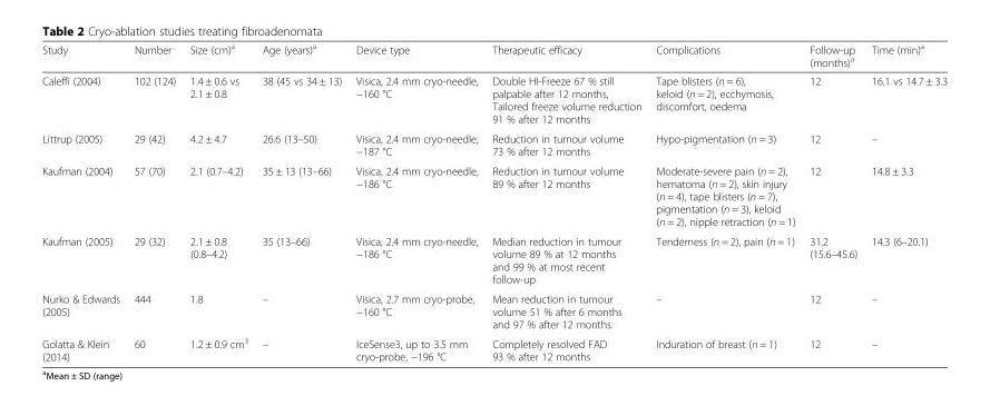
<table><thead><tr><td>Study</td><td>Number</td><td>Size (cm)<sup>a</sup></td><td>Age (years)<sup>a</sup></td><td>Device type</td><td>Therapeutic efficacy</td><td>Complications</td><td>Follow-up (months)<sup>a</sup></td><td>Time (min)<sup>a</sup></td></tr></thead><tbody><tr><td>Caleffi (2004)</td><td>102 (124)</td><td>1.4 ± 0.6 vs 2.1 ± 0.8</td><td>38 (45 vs 34 ± 13)</td><td>Visica, 2.4 mm cryo-needle, −160 °C</td><td>Double HI-Freeze 67 % still palpable after 12 months, Tailored freeze volume reduction 91 % after 12 months</td><td>Tape blisters (n = 6), keloid (n = 2), ecchymosis, discomfort, oedema</td><td>12</td><td>16.1 vs 14.7 ± 3.3</td></tr><tr><td>Littrup (2005)</td><td>29 (42)</td><td>4.2 ± 4.7</td><td>26.6 (13–50)</td><td>Visica, 2.4 mm cryo-needle, −187 °C</td><td>Reduction in tumour volume 73 % after 12 months</td><td>Hypo-pigmentation (n = 3)</td><td>12</td><td>–</td></tr><tr><td>Kaufman (2004)</td><td>57 (70)</td><td>2.1 (0.7–4.2)</td><td>35 ± 13 (13–66)</td><td>Visica, 2.4 mm cryo-needle, −186 °C</td><td>Reduction in tumour volume 89 % after 12 months</td><td>Moderate-severe pain (n = 2), hematoma (n = 2), skin injury (n = 4), tape blisters (n = 7), pigmentation (n = 3), keloid (n = 2), nipple retraction (n = 1)</td><td>12</td><td>14.8 ± 3.3</td></tr><tr><td>Kaufman (2005)</td><td>29 (32)</td><td>2.1 ± 0.8 (0.8–4.2)</td><td>35 (13–66)</td><td>Visica, 2.4 mm cryo-needle, −186 °C</td><td>Median reduction in tumour volume 89 % at 12 months and 99 % at most recent follow-up</td><td>Tenderness (n = 2), pain (n = 1)</td><td>31.2 (15.6–45.6)</td><td>14.3 (6–20.1)</td></tr><tr><td>Nurko &amp; Edwards (2005)</td><td>444</td><td>1.8</td><td>–</td><td>Visica, 2.7 mm cryo-probe, −160 °C</td><td>Mean reduction in tumour volume 51 % after 6 months and 97 % after 12 months.</td><td>–</td><td>12</td><td>–</td></tr><tr><td>Golatta &amp; Klein (2014)</td><td>60</td><td>1.2 ± 0.9 cm<sup>3</sup></td><td>–</td><td>IceSense3, up to 3.5 mm cryo-probe, −196 °C</td><td>Completely resolved FAD 93 % after 12 months</td><td>Induration of breast (n = 1)</td><td>12</td><td>–</td></tr></tbody></table>